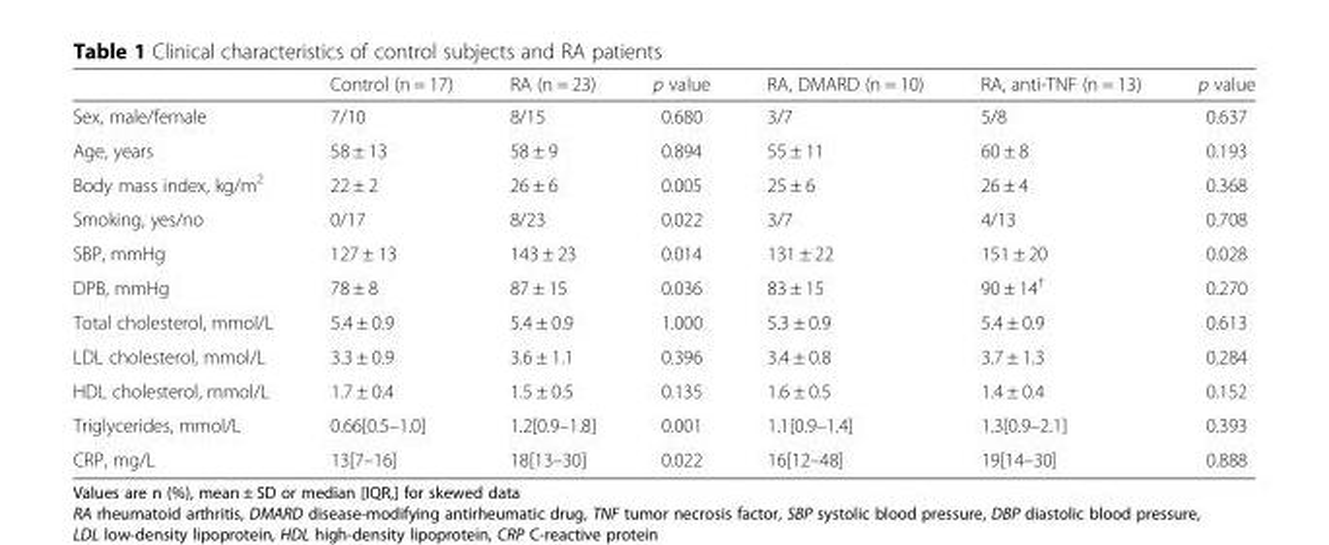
<table><thead><tr><td></td><td>Control (n = 17)</td><td>RA (n = 23)</td><td>p value</td><td>RA, DMARD (n = 10)</td><td>RA, anti-TNF (n = 13)</td><td>p value</td></tr></thead><tbody><tr><td>Sex, male/female</td><td>7/10</td><td>8/15</td><td>0.680</td><td>3/7</td><td>5/8</td><td>0.637</td></tr><tr><td>Age, years</td><td>58 ± 13</td><td>58 ± 9</td><td>0.894</td><td>55 ± 11</td><td>60 ± 8</td><td>0.193</td></tr><tr><td>Body mass index, kg/m<sup>2</sup></td><td>22 ± 2</td><td>26 ± 6</td><td>0.005</td><td>25 ± 6</td><td>26 ± 4</td><td>0.368</td></tr><tr><td>Smoking, yes/no</td><td>0/17</td><td>8/23</td><td>0.022</td><td>3/7</td><td>4/13</td><td>0.708</td></tr><tr><td>SBP, mmHg</td><td>127 ± 13</td><td>143 ± 23</td><td>0.014</td><td>131 ± 22</td><td>151 ± 20</td><td>0.028</td></tr><tr><td>DPB, mmHg</td><td>78 ± 8</td><td>87 ± 15</td><td>0.036</td><td>83 ± 15</td><td>90 ± 14<sup>†</sup></td><td>0.270</td></tr><tr><td>Total cholesterol, mmol/L</td><td>5.4 ± 0.9</td><td>5.4 ± 0.9</td><td>1.000</td><td>5.3 ± 0.9</td><td>5.4 ± 0.9</td><td>0.613</td></tr><tr><td>LDL cholesterol, mmol/L</td><td>3.3 ± 0.9</td><td>3.6 ± 1.1</td><td>0.396</td><td>3.4 ± 0.8</td><td>3.7 ± 1.3</td><td>0.284</td></tr><tr><td>HDL cholesterol, mmol/L</td><td>1.7 ± 0.4</td><td>1.5 ± 0.5</td><td>0.135</td><td>1.6 ± 0.5</td><td>1.4 ± 0.4</td><td>0.152</td></tr><tr><td>Triglycerides, mmol/L</td><td>0.66[0.5–1.0]</td><td>1.2[0.9–1.8]</td><td>0.001</td><td>1.1[0.9–1.4]</td><td>1.3[0.9–2.1]</td><td>0.393</td></tr><tr><td>CRP, mg/L</td><td>13[7–16]</td><td>18[13–30]</td><td>0.022</td><td>16[12–48]</td><td>19[14–30]</td><td>0.888</td></tr></tbody></table>